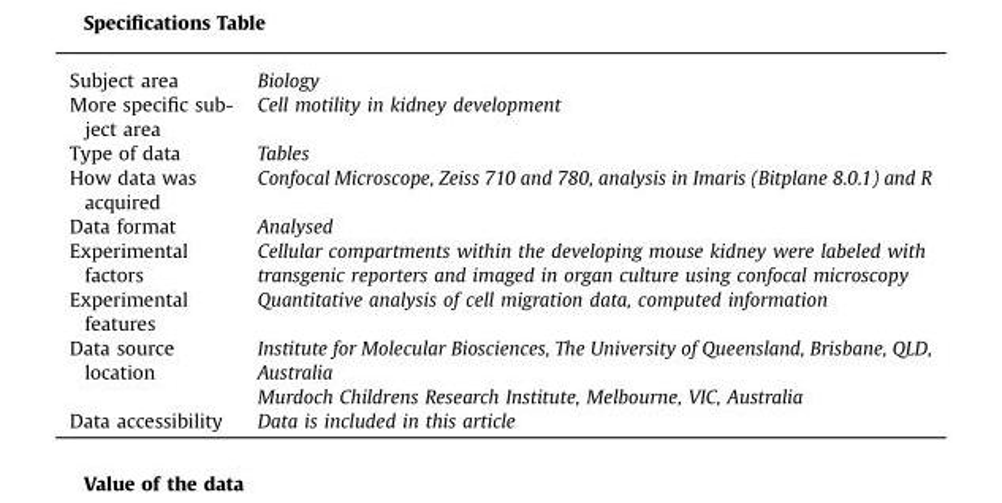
<table><tbody><tr><td>Subject area</td><td>Biology</td></tr><tr><td>More specific sub- ject area</td><td>Cell motility in kidney development</td></tr><tr><td>Type of data</td><td>Tables</td></tr><tr><td>How data was acquired</td><td>Confocal Microscope, Zeiss 710 and 780, analysis in Imaris (Bitplane 8.0.1) and R</td></tr><tr><td>Data format</td><td>Analysed</td></tr><tr><td>Experimental factors</td><td>Cellular compartments within the developing mouse kidney were labeled with transgenic reporters and imaged in organ culture using confocal microscopy</td></tr><tr><td>Experimental features</td><td>Quantitative analysis of cell migration data, computed information</td></tr><tr><td rowspan="2">Data source location</td><td>Institute for Molecular Biosciences, The University of Queensland, Brisbane, QLD, Australia</td></tr><tr><td>Murdoch Childrens Research Institute, Melbourne, VIC, Australia</td></tr><tr><td>Data accessibility</td><td>Data is included in this article</td></tr></tbody></table>